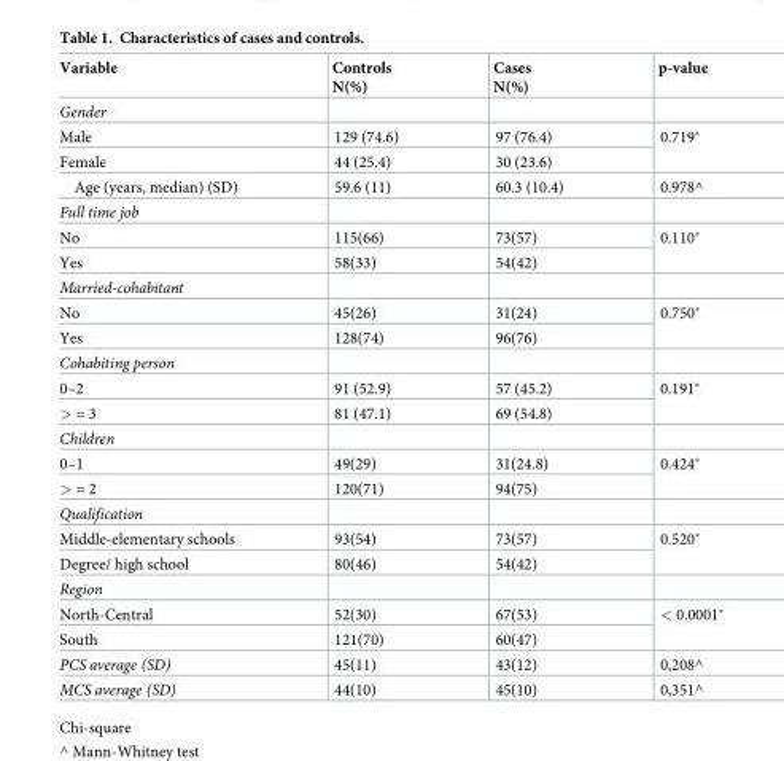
<table><thead><tr><td>Variable</td><td>Controls N(%)</td><td>Cases N(%)</td><td>p-value</td></tr></thead><tbody><tr><td colspan="4">Gender</td></tr><tr><td>Male</td><td>129 (74.6)</td><td>97 (76.4)</td><td rowspan="2">0.719*</td></tr><tr><td>Female</td><td>44 (25.4)</td><td>30 (23.6)</td></tr><tr><td>Age (years, median) (SD)</td><td>59.6 (11)</td><td>60.3 (10.4)</td><td>0.978^</td></tr><tr><td colspan="4">Full time job</td></tr><tr><td>No</td><td>115(66)</td><td>73(57)</td><td rowspan="2">0.110*</td></tr><tr><td>Yes</td><td>58(33)</td><td>54(42)</td></tr><tr><td colspan="4">Married-cohabitant</td></tr><tr><td>No</td><td>45(26)</td><td>31(24)</td><td rowspan="2">0.750*</td></tr><tr><td>Yes</td><td>128(74)</td><td>96(76)</td></tr><tr><td colspan="4">Cohabiting person</td></tr><tr><td>0–2</td><td>91 (52.9)</td><td>57 (45.2)</td><td rowspan="2">0.191*</td></tr><tr><td>&gt; = 3</td><td>81 (47.1)</td><td>69 (54.8)</td></tr><tr><td colspan="4">Children</td></tr><tr><td>0–1</td><td>49(29)</td><td>31(24.8)</td><td rowspan="2">0.424*</td></tr><tr><td>&gt; = 2</td><td>120(71)</td><td>94(75)</td></tr><tr><td colspan="4">Qualification</td></tr><tr><td>Middle-elementary schools</td><td>93(54)</td><td>73(57)</td><td rowspan="2">0.520*</td></tr><tr><td>Degree/ high school</td><td>80(46)</td><td>54(42)</td></tr><tr><td colspan="4">Region</td></tr><tr><td>North-Central</td><td>52(30)</td><td>67(53)</td><td rowspan="2">&lt; 0.0001*</td></tr><tr><td>South</td><td>121(70)</td><td>60(47)</td></tr><tr><td>PCS average (SD)</td><td>45(11)</td><td>43(12)</td><td>0,208^</td></tr><tr><td>MCS average (SD)</td><td>44(10)</td><td>45(10)</td><td>0,351^</td></tr></tbody></table>